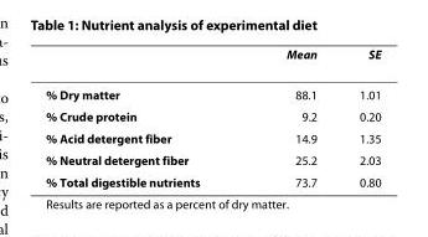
<table><thead><tr><td></td><td>Mean</td><td>SE</td></tr></thead><tbody><tr><td>% Dry matter</td><td>88.1</td><td>1.01</td></tr><tr><td>% Crude protein</td><td>9.2</td><td>0.20</td></tr><tr><td>% Acid detergent fiber</td><td>14.9</td><td>1.35</td></tr><tr><td>% Neutral detergent fiber</td><td>25.2</td><td>2.03</td></tr><tr><td>% Total digestible nutrients</td><td>73.7</td><td>0.80</td></tr></tbody></table>